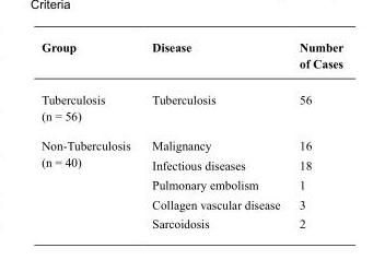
<table><thead><tr><td>Group</td><td>Disease</td><td>Number of Cases</td></tr></thead><tbody><tr><td>Tuberculosis (n = 56)</td><td>Tuberculosis</td><td>56</td></tr><tr><td rowspan="5">Non-Tuberculosis (n = 40)</td><td>Malignancy</td><td>16</td></tr><tr><td>Infectious diseases</td><td>18</td></tr><tr><td>Pulmonary embolism</td><td>1</td></tr><tr><td>Collagen vascular disease</td><td>3</td></tr><tr><td>Sarcoidosis</td><td>2</td></tr></tbody></table>